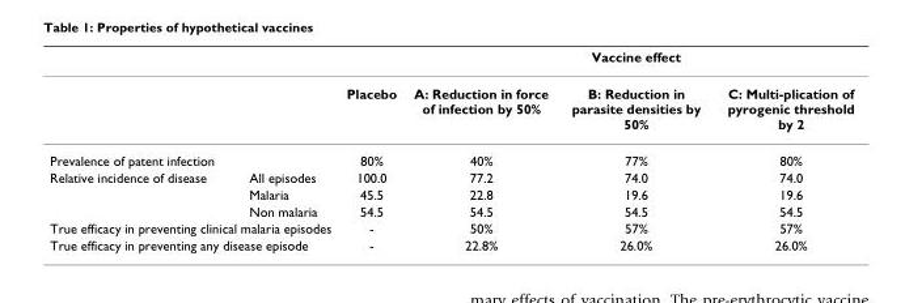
<table><thead><tr><td rowspan="2"></td><td rowspan="2"></td><td rowspan="2">Placebo</td><td colspan="3">Vaccine effect</td></tr><tr><td>A: Reduction in force of infection by 50%</td><td>B: Reduction in parasite densities by 50%</td><td>C: Multi-plication of pyrogenic threshold by 2</td></tr></thead><tbody><tr><td colspan="2">Prevalence of patent infection</td><td>80%</td><td>40%</td><td>77%</td><td>80%</td></tr><tr><td rowspan="3">Relative incidence of disease</td><td>All episodes</td><td>100.0</td><td>77.2</td><td>74.0</td><td>74.0</td></tr><tr><td>Malaria</td><td>45.5</td><td>22.8</td><td>19.6</td><td>19.6</td></tr><tr><td>Non malaria</td><td>54.5</td><td>54.5</td><td>54.5</td><td>54.5</td></tr><tr><td colspan="2">True efficacy in preventing clinical malaria episodes</td><td>-</td><td>50%</td><td>57%</td><td>57%</td></tr><tr><td colspan="2">True efficacy in preventing any disease episode</td><td>-</td><td>22.8%</td><td>26.0%</td><td>26.0%</td></tr></tbody></table>